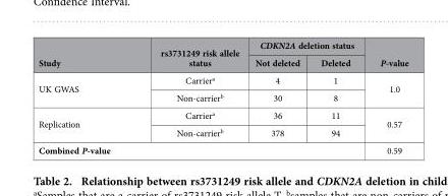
<table><thead><tr><td rowspan="2">Study</td><td rowspan="2">rs3731249 risk allele status</td><td colspan="2">CDKN2A deletion status</td><td rowspan="2">P-value</td></tr><tr><td>Not deleted</td><td>Deleted</td></tr></thead><tbody><tr><td rowspan="2">UK GWAS</td><td>Carrier<sup>a</sup></td><td>4</td><td>1</td><td rowspan="2">1.0</td></tr><tr><td>Non-carrier<sup>b</sup></td><td>30</td><td>8</td></tr><tr><td rowspan="2">Replication</td><td>Carrier<sup>a</sup></td><td>36</td><td>11</td><td rowspan="2">0.57</td></tr><tr><td>Non-carrier<sup>b</sup></td><td>378</td><td>94</td></tr><tr><td colspan="4">Combined P-value</td><td>0.59</td></tr></tbody></table>